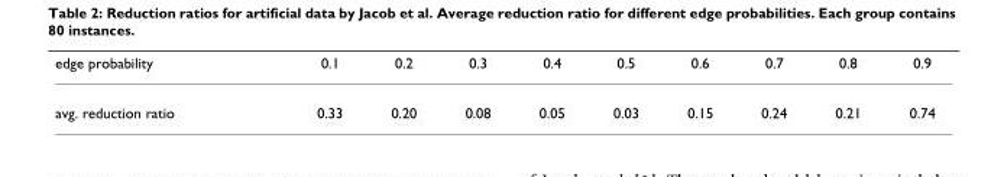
<table><thead><tr><td>edge probability</td><td>0.1</td><td>0.2</td><td>0.3</td><td>0.4</td><td>0.5</td><td>0.6</td><td>0.7</td><td>0.8</td><td>0.9</td></tr></thead><tbody><tr><td>avg. reduction ratio</td><td>0.33</td><td>0.20</td><td>0.08</td><td>0.05</td><td>0.03</td><td>0.15</td><td>0.24</td><td>0.21</td><td>0.74</td></tr></tbody></table>